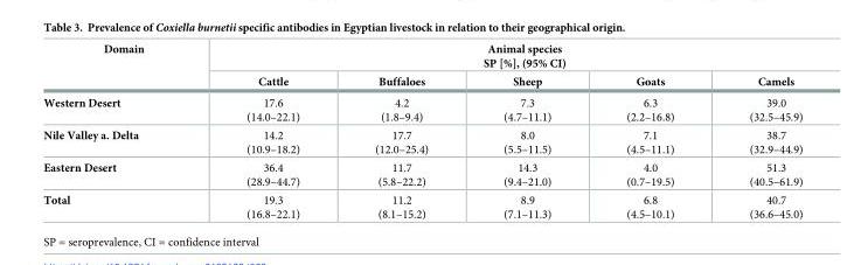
<table><thead><tr><td rowspan="2">Domain</td><td colspan="5">Animal species SP [%], (95% CI)</td></tr><tr><td>Cattle</td><td>Buffaloes</td><td>Sheep</td><td>Goats</td><td>Camels</td></tr></thead><tbody><tr><td>Western Desert</td><td>17.6 (14.0–22.1)</td><td>4.2 (1.8–9.4)</td><td>7.3 (4.7–11.1)</td><td>6.3 (2.2–16.8)</td><td>39.0 (32.5–45.9)</td></tr><tr><td>Nile Valley a. Delta</td><td>14.2 (10.9–18.2)</td><td>17.7 (12.0–25.4)</td><td>8.0 (5.5–11.5)</td><td>7.1 (4.5–11.1)</td><td>38.7 (32.9–44.9)</td></tr><tr><td>Eastern Desert</td><td>36.4 (28.9–44.7)</td><td>11.7 (5.8–22.2)</td><td>14.3 (9.4–21.0)</td><td>4.0 (0.7–19.5)</td><td>51.3 (40.5–61.9)</td></tr><tr><td>Total</td><td>19.3 (16.8–22.1)</td><td>11.2 (8.1–15.2)</td><td>8.9 (7.1–11.3)</td><td>6.8 (4.5–10.1)</td><td>40.7 (36.6–45.0)</td></tr></tbody></table>